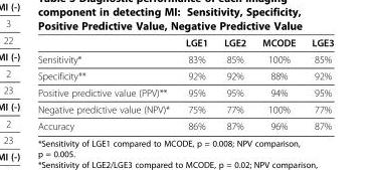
<table><thead><tr><td></td><td>LGE1</td><td>LGE2</td><td>MCODE</td><td>LGE3</td></tr></thead><tbody><tr><td>Sensitivity*</td><td>83%</td><td>85%</td><td>100%</td><td>85%</td></tr><tr><td>Specificity**</td><td>92%</td><td>92%</td><td>88%</td><td>92%</td></tr><tr><td>Positive predictive value (PPV)**</td><td>95%</td><td>95%</td><td>94%</td><td>95%</td></tr><tr><td>Negative predictive value (NPV)*</td><td>75%</td><td>77%</td><td>100%</td><td>77%</td></tr><tr><td>Accuracy</td><td>86%</td><td>87%</td><td>96%</td><td>87%</td></tr></tbody></table>